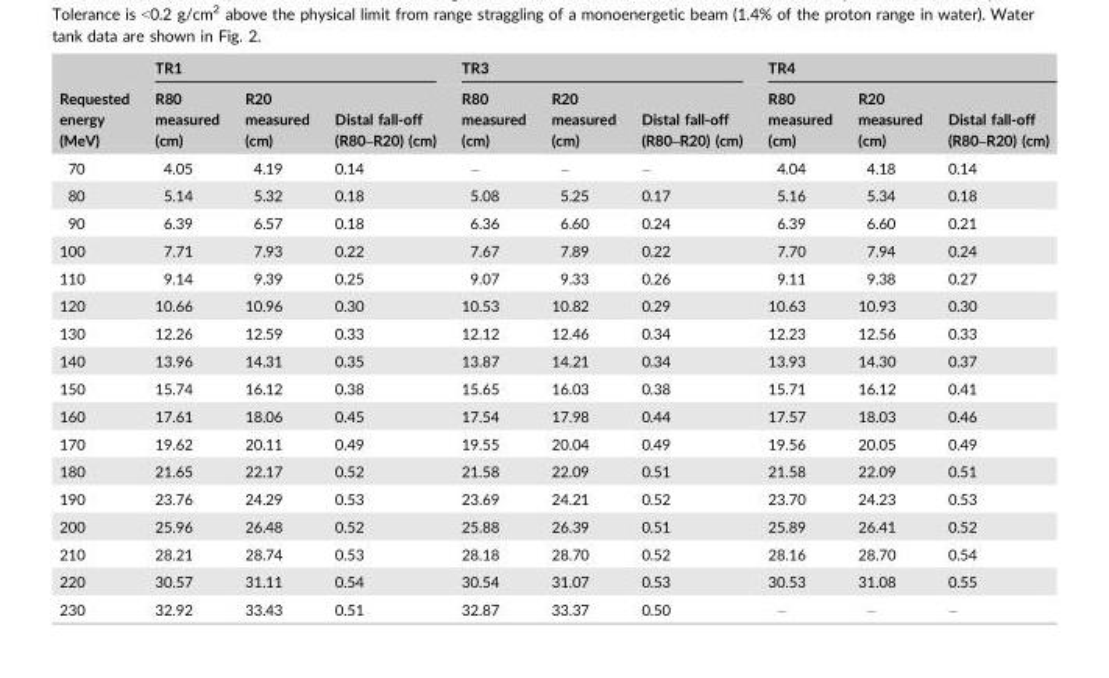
<table><thead><tr><td rowspan="2">Requested energy (MeV)</td><td colspan="3">TR1</td><td colspan="3">TR3</td><td colspan="3">TR4</td></tr><tr><td>R80 measured (cm)</td><td>R20 measured (cm)</td><td>Distal fall-off (R80–R20) (cm)</td><td>R80 measured (cm)</td><td>R20 measured (cm)</td><td>Distal fall-off (R80–R20) (cm)</td><td>R80 measured (cm)</td><td>R20 measured (cm)</td><td>Distal fall-off (R80–R20) (cm)</td></tr></thead><tbody><tr><td>70</td><td>4.05</td><td>4.19</td><td>0.14</td><td>–</td><td>–</td><td>–</td><td>4.04</td><td>4.18</td><td>0.14</td></tr><tr><td>80</td><td>5.14</td><td>5.32</td><td>0.18</td><td>5.08</td><td>5.25</td><td>0.17</td><td>5.16</td><td>5.34</td><td>0.18</td></tr><tr><td>90</td><td>6.39</td><td>6.57</td><td>0.18</td><td>6.36</td><td>6.60</td><td>0.24</td><td>6.39</td><td>6.60</td><td>0.21</td></tr><tr><td>100</td><td>7.71</td><td>7.93</td><td>0.22</td><td>7.67</td><td>7.89</td><td>0.22</td><td>7.70</td><td>7.94</td><td>0.24</td></tr><tr><td>110</td><td>9.14</td><td>9.39</td><td>0.25</td><td>9.07</td><td>9.33</td><td>0.26</td><td>9.11</td><td>9.38</td><td>0.27</td></tr><tr><td>120</td><td>10.66</td><td>10.96</td><td>0.30</td><td>10.53</td><td>10.82</td><td>0.29</td><td>10.63</td><td>10.93</td><td>0.30</td></tr><tr><td>130</td><td>12.26</td><td>12.59</td><td>0.33</td><td>12.12</td><td>12.46</td><td>0.34</td><td>12.23</td><td>12.56</td><td>0.33</td></tr><tr><td>140</td><td>13.96</td><td>14.31</td><td>0.35</td><td>13.87</td><td>14.21</td><td>0.34</td><td>13.93</td><td>14.30</td><td>0.37</td></tr><tr><td>150</td><td>15.74</td><td>16.12</td><td>0.38</td><td>15.65</td><td>16.03</td><td>0.38</td><td>15.71</td><td>16.12</td><td>0.41</td></tr><tr><td>160</td><td>17.61</td><td>18.06</td><td>0.45</td><td>17.54</td><td>17.98</td><td>0.44</td><td>17.57</td><td>18.03</td><td>0.46</td></tr><tr><td>170</td><td>19.62</td><td>20.11</td><td>0.49</td><td>19.55</td><td>20.04</td><td>0.49</td><td>19.56</td><td>20.05</td><td>0.49</td></tr><tr><td>180</td><td>21.65</td><td>22.17</td><td>0.52</td><td>21.58</td><td>22.09</td><td>0.51</td><td>21.58</td><td>22.09</td><td>0.51</td></tr><tr><td>190</td><td>23.76</td><td>24.29</td><td>0.53</td><td>23.69</td><td>24.21</td><td>0.52</td><td>23.70</td><td>24.23</td><td>0.53</td></tr><tr><td>200</td><td>25.96</td><td>26.48</td><td>0.52</td><td>25.88</td><td>26.39</td><td>0.51</td><td>25.89</td><td>26.41</td><td>0.52</td></tr><tr><td>210</td><td>28.21</td><td>28.74</td><td>0.53</td><td>28.18</td><td>28.70</td><td>0.52</td><td>28.16</td><td>28.70</td><td>0.54</td></tr><tr><td>220</td><td>30.57</td><td>31.11</td><td>0.54</td><td>30.54</td><td>31.07</td><td>0.53</td><td>30.53</td><td>31.08</td><td>0.55</td></tr><tr><td>230</td><td>32.92</td><td>33.43</td><td>0.51</td><td>32.87</td><td>33.37</td><td>0.50</td><td>–</td><td>–</td><td>–</td></tr></tbody></table>